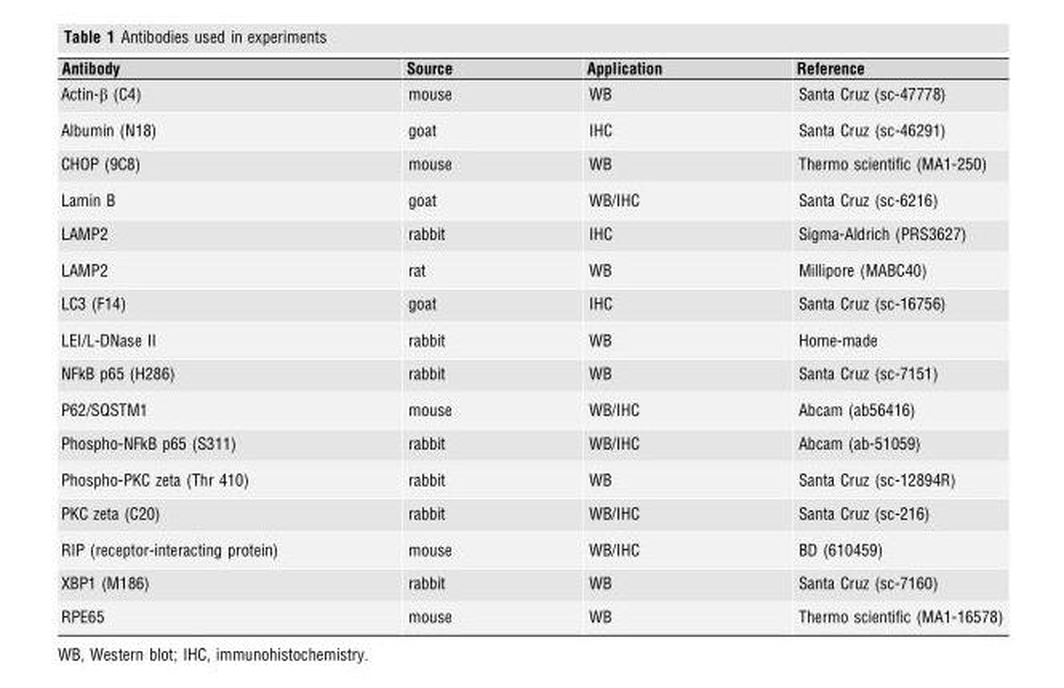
<table><thead><tr><td>Antibody</td><td>Source</td><td>Application</td><td>Reference</td></tr></thead><tbody><tr><td>Actin-β (C4)</td><td>mouse</td><td>WB</td><td>Santa Cruz (sc-47778)</td></tr><tr><td>Albumin (N18)</td><td>goat</td><td>IHC</td><td>Santa Cruz (sc-46291)</td></tr><tr><td>CHOP (9C8)</td><td>mouse</td><td>WB</td><td>Thermo scientific (MA1-250)</td></tr><tr><td>Lamin B</td><td>goat</td><td>WB/IHC</td><td>Santa Cruz (sc-6216)</td></tr><tr><td>LAMP2</td><td>rabbit</td><td>IHC</td><td>Sigma-Aldrich (PRS3627)</td></tr><tr><td>LAMP2</td><td>rat</td><td>WB</td><td>Millipore (MABC40)</td></tr><tr><td>LC3 (F14)</td><td>goat</td><td>IHC</td><td>Santa Cruz (sc-16756)</td></tr><tr><td>LEI/L-DNase II</td><td>rabbit</td><td>WB</td><td>Home-made</td></tr><tr><td>NFkB p65 (H286)</td><td>rabbit</td><td>WB</td><td>Santa Cruz (sc-7151)</td></tr><tr><td>P62/SQSTM1</td><td>mouse</td><td>WB/IHC</td><td>Abcam (ab56416)</td></tr><tr><td>Phospho-NFkB p65 (S311)</td><td>rabbit</td><td>WB/IHC</td><td>Abcam (ab-51059)</td></tr><tr><td>Phospho-PKC zeta (Thr 410)</td><td>rabbit</td><td>WB</td><td>Santa Cruz (sc-12894R)</td></tr><tr><td>PKC zeta (C20)</td><td>rabbit</td><td>WB/IHC</td><td>Santa Cruz (sc-216)</td></tr><tr><td>RIP (receptor-interacting protein)</td><td>mouse</td><td>WB/IHC</td><td>BD (610459)</td></tr><tr><td>XBP1 (M186)</td><td>rabbit</td><td>WB</td><td>Santa Cruz (sc-7160)</td></tr><tr><td>RPE65</td><td>mouse</td><td>WB</td><td>Thermo scientific (MA1-16578)</td></tr></tbody></table>